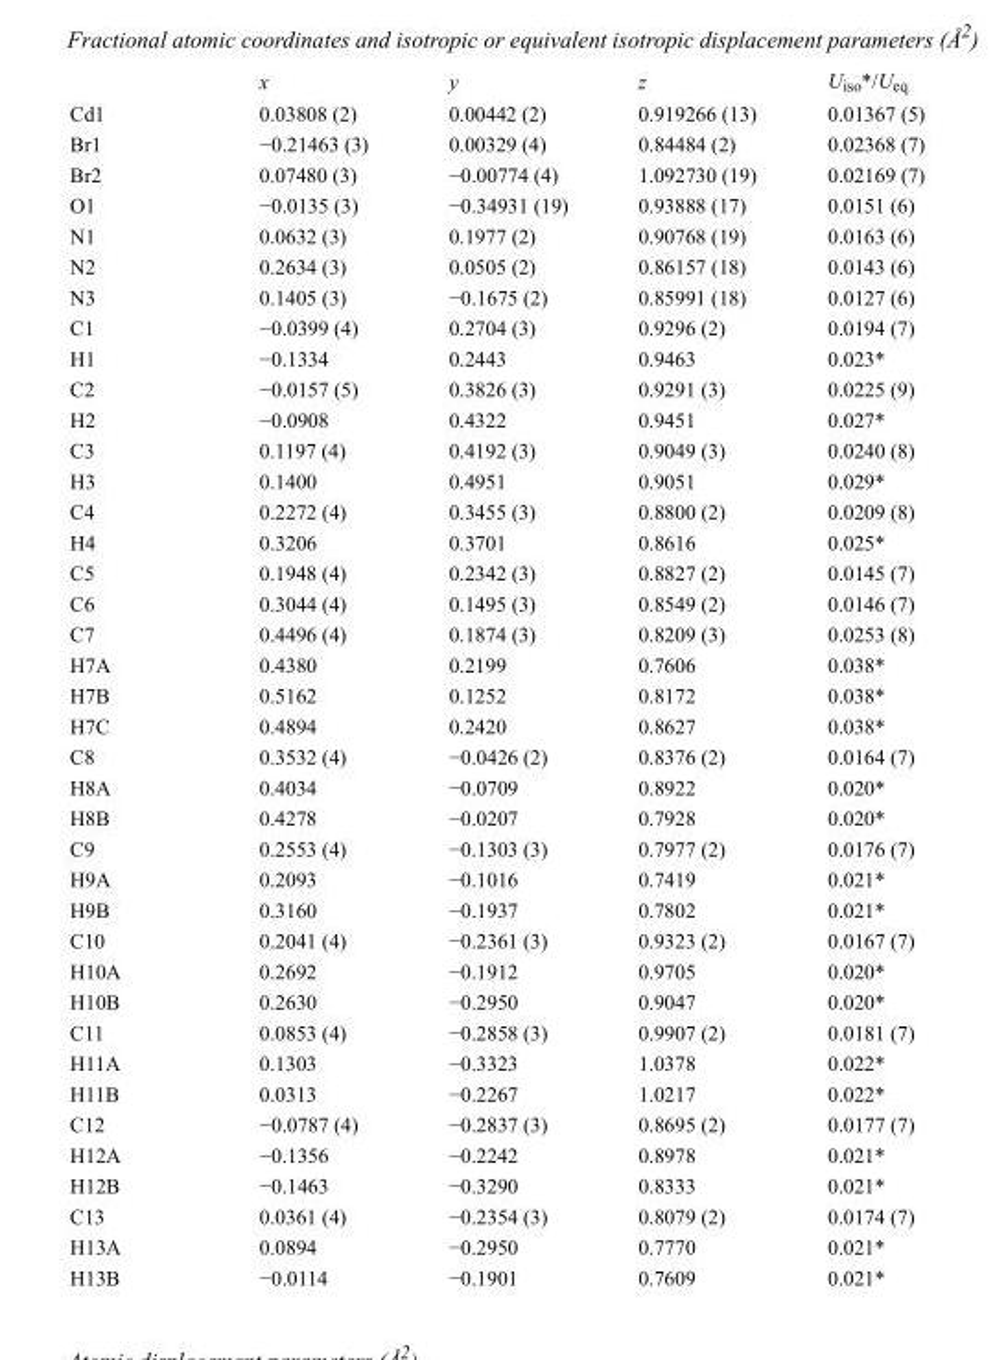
<table><thead><tr><td></td><td>x</td><td>y</td><td>z</td><td>U<sub>iso</sub>*/U<sub>eq</sub></td></tr></thead><tbody><tr><td>Cd1</td><td>0.03808 (2)</td><td>0.00442 (2)</td><td>0.919266 (13)</td><td>0.01367 (5)</td></tr><tr><td>Br1</td><td>−0.21463 (3)</td><td>0.00329 (4)</td><td>0.84484 (2)</td><td>0.02368 (7)</td></tr><tr><td>Br2</td><td>0.07480 (3)</td><td>−0.00774 (4)</td><td>1.092730 (19)</td><td>0.02169 (7)</td></tr><tr><td>O1</td><td>−0.0135 (3)</td><td>−0.34931 (19)</td><td>0.93888 (17)</td><td>0.0151 (6)</td></tr><tr><td>N1</td><td>0.0632 (3)</td><td>0.1977 (2)</td><td>0.90768 (19)</td><td>0.0163 (6)</td></tr><tr><td>N2</td><td>0.2634 (3)</td><td>0.0505 (2)</td><td>0.86157 (18)</td><td>0.0143 (6)</td></tr><tr><td>N3</td><td>0.1405 (3)</td><td>−0.1675 (2)</td><td>0.85991 (18)</td><td>0.0127 (6)</td></tr><tr><td>C1</td><td>−0.0399 (4)</td><td>0.2704 (3)</td><td>0.9296 (2)</td><td>0.0194 (7)</td></tr><tr><td>H1</td><td>−0.1334</td><td>0.2443</td><td>0.9463</td><td>0.023*</td></tr><tr><td>C2</td><td>−0.0157 (5)</td><td>0.3826 (3)</td><td>0.9291 (3)</td><td>0.0225 (9)</td></tr><tr><td>H2</td><td>−0.0908</td><td>0.4322</td><td>0.9451</td><td>0.027*</td></tr><tr><td>C3</td><td>0.1197 (4)</td><td>0.4192 (3)</td><td>0.9049 (3)</td><td>0.0240 (8)</td></tr><tr><td>H3</td><td>0.1400</td><td>0.4951</td><td>0.9051</td><td>0.029*</td></tr><tr><td>C4</td><td>0.2272 (4)</td><td>0.3455 (3)</td><td>0.8800 (2)</td><td>0.0209 (8)</td></tr><tr><td>H4</td><td>0.3206</td><td>0.3701</td><td>0.8616</td><td>0.025*</td></tr><tr><td>C5</td><td>0.1948 (4)</td><td>0.2342 (3)</td><td>0.8827 (2)</td><td>0.0145 (7)</td></tr><tr><td>C6</td><td>0.3044 (4)</td><td>0.1495 (3)</td><td>0.8549 (2)</td><td>0.0146 (7)</td></tr><tr><td>C7</td><td>0.4496 (4)</td><td>0.1874 (3)</td><td>0.8209 (3)</td><td>0.0253 (8)</td></tr><tr><td>H7A</td><td>0.4380</td><td>0.2199</td><td>0.7606</td><td>0.038*</td></tr><tr><td>H7B</td><td>0.5162</td><td>0.1252</td><td>0.8172</td><td>0.038*</td></tr><tr><td>H7C</td><td>0.4894</td><td>0.2420</td><td>0.8627</td><td>0.038*</td></tr><tr><td>C8</td><td>0.3532 (4)</td><td>−0.0426 (2)</td><td>0.8376 (2)</td><td>0.0164 (7)</td></tr><tr><td>H8A</td><td>0.4034</td><td>−0.0709</td><td>0.8922</td><td>0.020*</td></tr><tr><td>H8B</td><td>0.4278</td><td>−0.0207</td><td>0.7928</td><td>0.020*</td></tr><tr><td>C9</td><td>0.2553 (4)</td><td>−0.1303 (3)</td><td>0.7977 (2)</td><td>0.0176 (7)</td></tr><tr><td>H9A</td><td>0.2093</td><td>−0.1016</td><td>0.7419</td><td>0.021*</td></tr><tr><td>H9B</td><td>0.3160</td><td>−0.1937</td><td>0.7802</td><td>0.021*</td></tr><tr><td>C10</td><td>0.2041 (4)</td><td>−0.2361 (3)</td><td>0.9323 (2)</td><td>0.0167 (7)</td></tr><tr><td>H10A</td><td>0.2692</td><td>−0.1912</td><td>0.9705</td><td>0.020*</td></tr><tr><td>H10B</td><td>0.2630</td><td>−0.2950</td><td>0.9047</td><td>0.020*</td></tr><tr><td>C11</td><td>0.0853 (4)</td><td>−0.2858 (3)</td><td>0.9907 (2)</td><td>0.0181 (7)</td></tr><tr><td>H11A</td><td>0.1303</td><td>−0.3323</td><td>1.0378</td><td>0.022*</td></tr><tr><td>H11B</td><td>0.0313</td><td>−0.2267</td><td>1.0217</td><td>0.022*</td></tr><tr><td>C12</td><td>−0.0787 (4)</td><td>−0.2837 (3)</td><td>0.8695 (2)</td><td>0.0177 (7)</td></tr><tr><td>H12A</td><td>−0.1356</td><td>−0.2242</td><td>0.8978</td><td>0.021*</td></tr><tr><td>H12B</td><td>−0.1463</td><td>−0.3290</td><td>0.8333</td><td>0.021*</td></tr><tr><td>C13</td><td>0.0361 (4)</td><td>−0.2354 (3)</td><td>0.8079 (2)</td><td>0.0174 (7)</td></tr><tr><td>H13A</td><td>0.0894</td><td>−0.2950</td><td>0.7770</td><td>0.021*</td></tr><tr><td>H13B</td><td>−0.0114</td><td>−0.1901</td><td>0.7609</td><td>0.021*</td></tr></tbody></table>